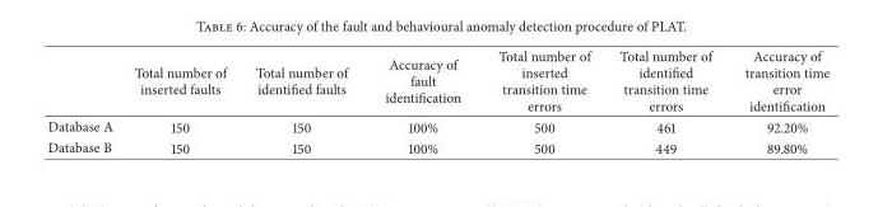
<table><thead><tr><td></td><td>Total number of inserted faults</td><td>Total number of identified faults</td><td>Accuracy of fault identification</td><td>Total number of inserted transition time errors</td><td>Total number of identified transition time errors</td><td>Accuracy of transition time error identification</td></tr></thead><tbody><tr><td>Database A</td><td>150</td><td>150</td><td>100%</td><td>500</td><td>461</td><td>92.20%</td></tr><tr><td>Database B</td><td>150</td><td>150</td><td>100%</td><td>500</td><td>449</td><td>89.80%</td></tr></tbody></table>